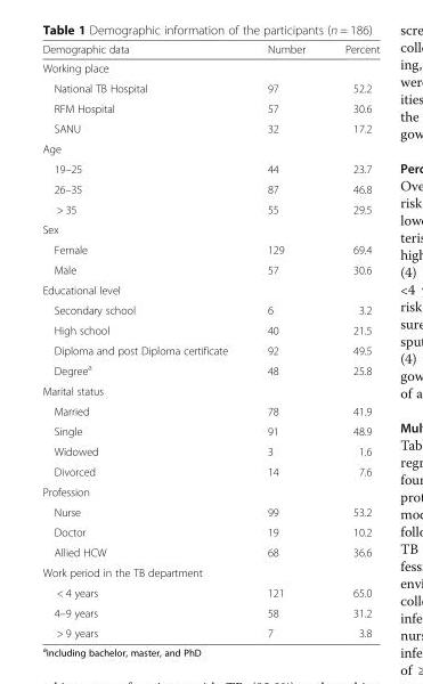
<table><thead><tr><td>Demographic data</td><td>Number</td><td>Percent</td></tr></thead><tbody><tr><td colspan="3">Working place</td></tr><tr><td>National TB Hospital</td><td>97</td><td>52.2</td></tr><tr><td>RFM Hospital</td><td>57</td><td>30.6</td></tr><tr><td>SANU</td><td>32</td><td>17.2</td></tr><tr><td colspan="3">Age</td></tr><tr><td>19–25</td><td>44</td><td>23.7</td></tr><tr><td>26–35</td><td>87</td><td>46.8</td></tr><tr><td>&gt; 35</td><td>55</td><td>29.5</td></tr><tr><td colspan="3">Sex</td></tr><tr><td>Female</td><td>129</td><td>69.4</td></tr><tr><td>Male</td><td>57</td><td>30.6</td></tr><tr><td colspan="3">Educational level</td></tr><tr><td>Secondary school</td><td>6</td><td>3.2</td></tr><tr><td>High school</td><td>40</td><td>21.5</td></tr><tr><td>Diploma and post Diploma certificate</td><td>92</td><td>49.5</td></tr><tr><td>Degree<sup>a</sup></td><td>48</td><td>25.8</td></tr><tr><td colspan="3">Marital status</td></tr><tr><td>Married</td><td>78</td><td>41.9</td></tr><tr><td>Single</td><td>91</td><td>48.9</td></tr><tr><td>Widowed</td><td>3</td><td>1.6</td></tr><tr><td>Divorced</td><td>14</td><td>7.6</td></tr><tr><td colspan="3">Profession</td></tr><tr><td>Nurse</td><td>99</td><td>53.2</td></tr><tr><td>Doctor</td><td>19</td><td>10.2</td></tr><tr><td>Allied HCW</td><td>68</td><td>36.6</td></tr><tr><td colspan="3">Work period in the TB department</td></tr><tr><td>&lt; 4 years</td><td>121</td><td>65.0</td></tr><tr><td>4–9 years</td><td>58</td><td>31.2</td></tr><tr><td>&gt; 9 years</td><td>7</td><td>3.8</td></tr></tbody></table>